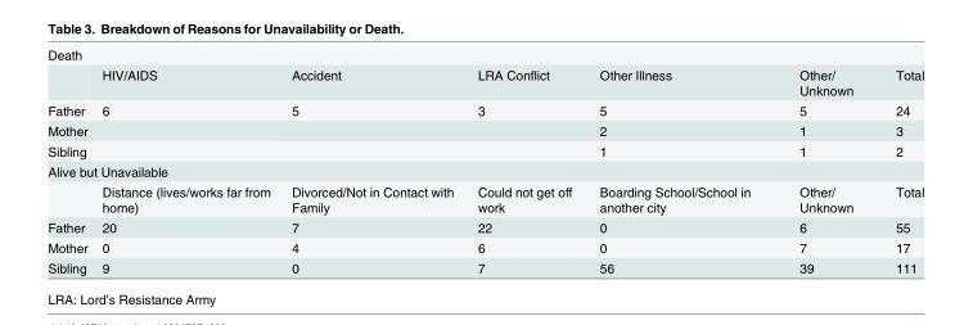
<table><tbody><tr><td colspan="7">Death</td></tr><tr><td></td><td>HIV/AIDS</td><td>Accident</td><td>LRA Conflict</td><td>Other Illness</td><td>Other/ Unknown</td><td>Total</td></tr><tr><td>Father</td><td>6</td><td>5</td><td>3</td><td>5</td><td>5</td><td>24</td></tr><tr><td>Mother</td><td></td><td></td><td></td><td>2</td><td>1</td><td>3</td></tr><tr><td>Sibling</td><td></td><td></td><td></td><td>1</td><td>1</td><td>2</td></tr><tr><td colspan="7">Alive but Unavailable</td></tr><tr><td></td><td>Distance (lives/works far from home)</td><td>Divorced/Not in Contact with Family</td><td>Could not get off work</td><td>Boarding School/School in another city</td><td>Other/ Unknown</td><td>Total</td></tr><tr><td>Father</td><td>20</td><td>7</td><td>22</td><td>0</td><td>6</td><td>55</td></tr><tr><td>Mother</td><td>0</td><td>4</td><td>6</td><td>0</td><td>7</td><td>17</td></tr><tr><td>Sibling</td><td>9</td><td>0</td><td>7</td><td>56</td><td>39</td><td>111</td></tr></tbody></table>